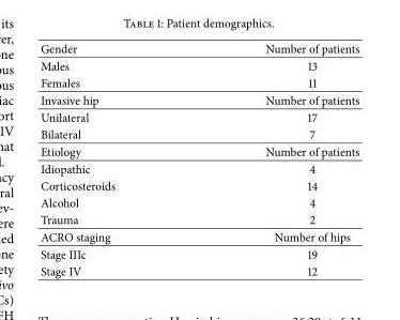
<table><tbody><tr><td>Gender</td><td>Number of patients</td></tr><tr><td>Males</td><td>13</td></tr><tr><td>Females</td><td>11</td></tr><tr><td>Invasive hip</td><td>Number of patients</td></tr><tr><td>Unilateral</td><td>17</td></tr><tr><td>Bilateral</td><td>7</td></tr><tr><td>Etiology</td><td>Number of patients</td></tr><tr><td>Idiopathic</td><td>4</td></tr><tr><td>Corticosteroids</td><td>14</td></tr><tr><td>Alcohol</td><td>4</td></tr><tr><td>Trauma</td><td>2</td></tr><tr><td>ACRO staging</td><td>Number of hips</td></tr><tr><td>Stage IIIc</td><td>19</td></tr><tr><td>Stage IV</td><td>12</td></tr></tbody></table>